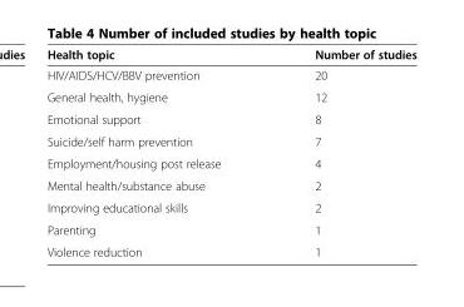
<table><thead><tr><td>Health topic</td><td>Number of studies</td></tr></thead><tbody><tr><td>HIV/AIDS/HCV/BBV prevention</td><td>20</td></tr><tr><td>General health, hygiene</td><td>12</td></tr><tr><td>Emotional support</td><td>8</td></tr><tr><td>Suicide/self harm prevention</td><td>7</td></tr><tr><td>Employment/housing post release</td><td>4</td></tr><tr><td>Mental health/substance abuse</td><td>2</td></tr><tr><td>Improving educational skills</td><td>2</td></tr><tr><td>Parenting</td><td>1</td></tr><tr><td>Violence reduction</td><td>1</td></tr></tbody></table>